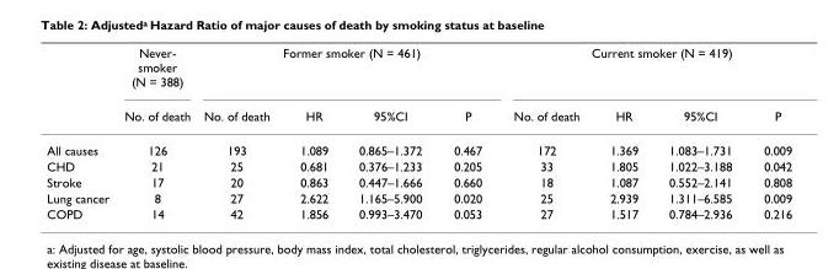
<table><thead><tr><td rowspan="2"></td><td rowspan="2">Never- smoker (N = 388) No. of death</td><td colspan="4">Former smoker (N = 461)</td><td colspan="4">Current smoker (N = 419)</td></tr><tr><td>No. of death</td><td>HR</td><td>95%CI</td><td>P</td><td>No. of death</td><td>HR</td><td>95%CI</td><td>P</td></tr></thead><tbody><tr><td>All causes</td><td>126</td><td>193</td><td>1.089</td><td>0.865–1.372</td><td>0.467</td><td>172</td><td>1.369</td><td>1.083–1.731</td><td>0.009</td></tr><tr><td>CHD</td><td>21</td><td>25</td><td>0.681</td><td>0.376–1.233</td><td>0.205</td><td>33</td><td>1.805</td><td>1.022–3.188</td><td>0.042</td></tr><tr><td>Stroke</td><td>17</td><td>20</td><td>0.863</td><td>0.447–1.666</td><td>0.660</td><td>18</td><td>1.087</td><td>0.552–2.141</td><td>0.808</td></tr><tr><td>Lung cancer</td><td>8</td><td>27</td><td>2.622</td><td>1.165–5.900</td><td>0.020</td><td>25</td><td>2.939</td><td>1.311–6.585</td><td>0.009</td></tr><tr><td>COPD</td><td>14</td><td>42</td><td>1.856</td><td>0.993–3.470</td><td>0.053</td><td>27</td><td>1.517</td><td>0.784–2.936</td><td>0.216</td></tr></tbody></table>